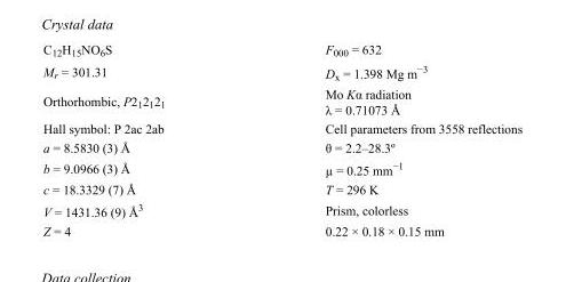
<table><tbody><tr><td>C<sub>12</sub>H<sub>15</sub>NO<sub>6</sub>S</td><td>F000 = 632</td></tr><tr><td>M<sub>r</sub> = 301.31</td><td>D<sub>x</sub> = 1.398 Mg m<sup>−3</sup></td></tr><tr><td>Orthorhombic, P2<sub>1</sub>2<sub>1</sub>2<sub>1</sub></td><td>Mo Kα radiation λ = 0.71073 Å</td></tr><tr><td>Hall symbol: P 2ac 2ab</td><td>Cell parameters from 3558 reflections</td></tr><tr><td>a = 8.5830 (3) Å</td><td>θ = 2.2–28.3º</td></tr><tr><td>b = 9.0966 (3) Å</td><td>µ = 0.25 mm<sup>−1</sup></td></tr><tr><td>c = 18.3329 (7) Å</td><td>T = 296 K</td></tr><tr><td>V = 1431.36 (9) Å<sup>3</sup></td><td>Prism, colorless</td></tr><tr><td>Z = 4</td><td>0.22 × 0.18 × 0.15 mm</td></tr></tbody></table>